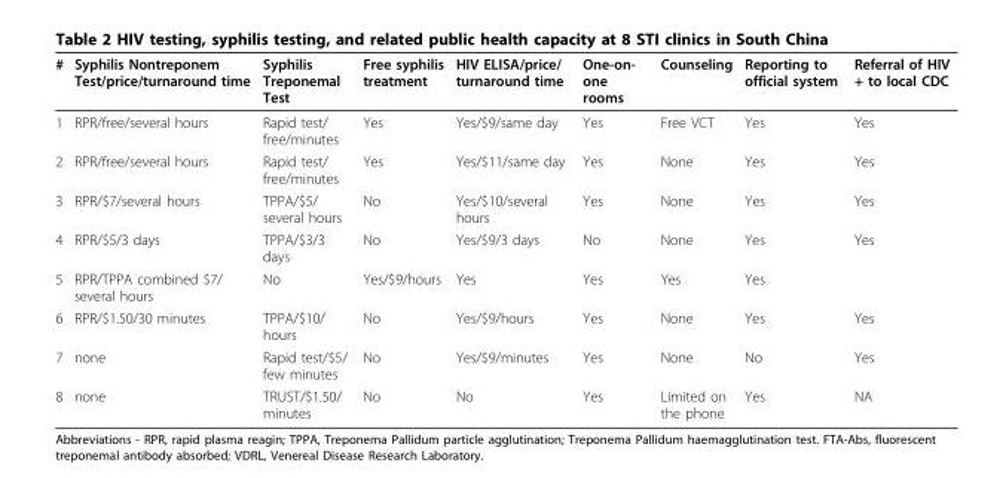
<table><thead><tr><td>#</td><td>Syphilis Nontreponem Test/price/turnaround time</td><td>Syphilis Treponemal Test</td><td>Free syphilis treatment</td><td>HIV ELISA/price/ turnaround time</td><td>One-on- one rooms</td><td>Counseling</td><td>Reporting to official system</td><td>Referral of HIV + to local CDC</td></tr></thead><tbody><tr><td>1</td><td>RPR/free/several hours</td><td>Rapid test/ free/minutes</td><td>Yes</td><td>Yes/$9/same day</td><td>Yes</td><td>Free VCT</td><td>Yes</td><td>Yes</td></tr><tr><td>2</td><td>RPR/free/several hours</td><td>Rapid test/ free/minutes</td><td>Yes</td><td>Yes/$11/same day</td><td>Yes</td><td>None</td><td>Yes</td><td>Yes</td></tr><tr><td>3</td><td>RPR/$7/several hours</td><td>TPPA/$5/ several hours</td><td>No</td><td>Yes/$10/several hours</td><td>Yes</td><td>None</td><td>Yes</td><td>Yes</td></tr><tr><td>4</td><td>RPR/$5/3 days</td><td>TPPA/$3/3 days</td><td>No</td><td>Yes/$9/3 days</td><td>No</td><td>None</td><td>Yes</td><td>Yes</td></tr><tr><td>5</td><td>RPR/TPPA combined $7/ several hours</td><td>No</td><td>Yes/$9/hours</td><td>Yes</td><td>Yes</td><td>Yes</td><td>Yes</td><td></td></tr><tr><td>6</td><td>RPR/$1.50/30 minutes</td><td>TPPA/$10/ hours</td><td>No</td><td>Yes/$9/hours</td><td>Yes</td><td>None</td><td>Yes</td><td>Yes</td></tr><tr><td>7</td><td>none</td><td>Rapid test/$5/ few minutes</td><td>No</td><td>Yes/$9/minutes</td><td>Yes</td><td>None</td><td>No</td><td>Yes</td></tr><tr><td>8</td><td>none</td><td>TRUST/$1.50/ minutes</td><td>No</td><td>No</td><td>Yes</td><td>Limited on the phone</td><td>Yes</td><td>NA</td></tr></tbody></table>